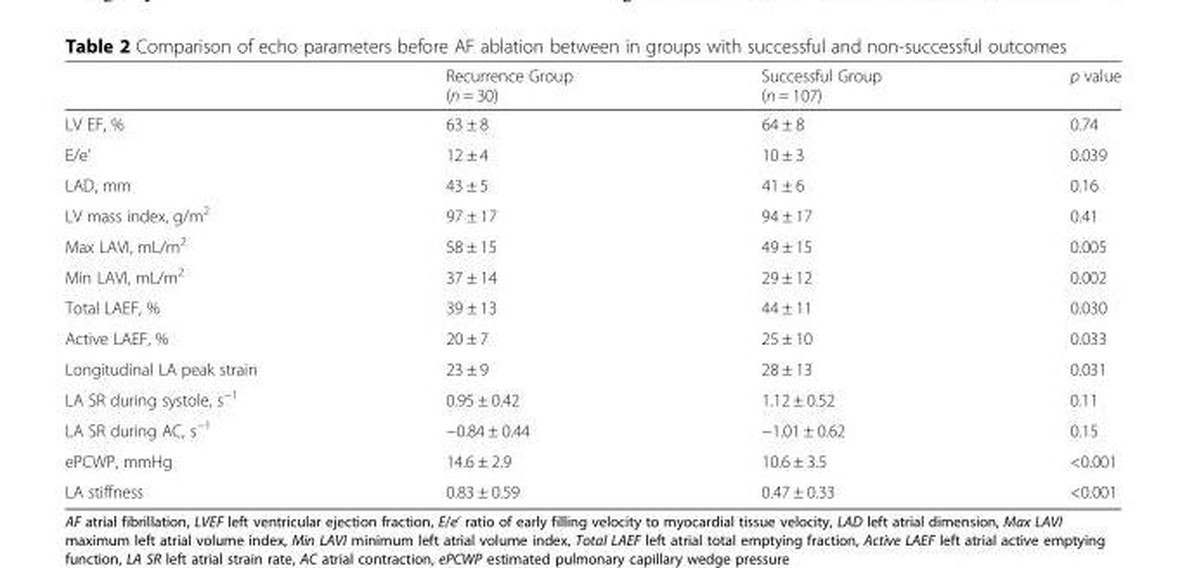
<table><thead><tr><td></td><td>Recurrence Group (n = 30)</td><td>Successful Group (n = 107)</td><td>p value</td></tr></thead><tbody><tr><td>LV EF, %</td><td>63 ± 8</td><td>64 ± 8</td><td>0.74</td></tr><tr><td>E/e’</td><td>12 ± 4</td><td>10 ± 3</td><td>0.039</td></tr><tr><td>LAD, mm</td><td>43 ± 5</td><td>41 ± 6</td><td>0.16</td></tr><tr><td>LV mass index, g/m<sup>2</sup></td><td>97 ± 17</td><td>94 ± 17</td><td>0.41</td></tr><tr><td>Max LAVI, mL/m<sup>2</sup></td><td>58 ± 15</td><td>49 ± 15</td><td>0.005</td></tr><tr><td>Min LAVI, mL/m<sup>2</sup></td><td>37 ± 14</td><td>29 ± 12</td><td>0.002</td></tr><tr><td>Total LAEF, %</td><td>39 ± 13</td><td>44 ± 11</td><td>0.030</td></tr><tr><td>Active LAEF, %</td><td>20 ± 7</td><td>25 ± 10</td><td>0.033</td></tr><tr><td>Longitudinal LA peak strain</td><td>23 ± 9</td><td>28 ± 13</td><td>0.031</td></tr><tr><td>LA SR during systole, s<sup>−1</sup></td><td>0.95 ± 0.42</td><td>1.12 ± 0.52</td><td>0.11</td></tr><tr><td>LA SR during AC, s<sup>−1</sup></td><td>−0.84 ± 0.44</td><td>−1.01 ± 0.62</td><td>0.15</td></tr><tr><td>ePCWP, mmHg</td><td>14.6 ± 2.9</td><td>10.6 ± 3.5</td><td>&lt;0.001</td></tr><tr><td>LA stiffness</td><td>0.83 ± 0.59</td><td>0.47 ± 0.33</td><td>&lt;0.001</td></tr></tbody></table>